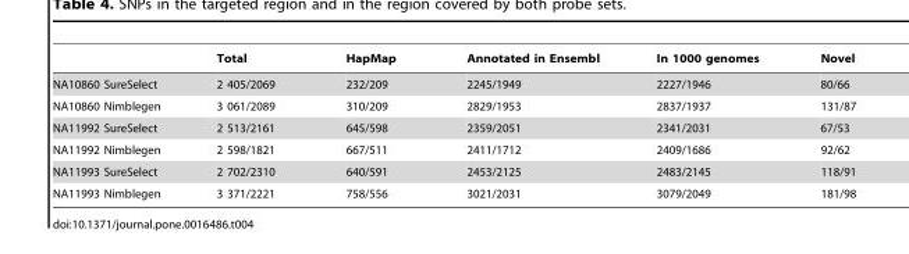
<table><thead><tr><td></td><td>Total</td><td>HapMap</td><td>Annotated in Ensembl</td><td>In 1000 genomes</td><td>Novel</td></tr></thead><tbody><tr><td>NA10860 SureSelect</td><td>2 405/2069</td><td>232/209</td><td>2245/1949</td><td>2227/1946</td><td>80/66</td></tr><tr><td>NA10860 Nimblegen</td><td>3 061/2089</td><td>310/209</td><td>2829/1953</td><td>2837/1937</td><td>131/87</td></tr><tr><td>NA11992 SureSelect</td><td>2 513/2161</td><td>645/598</td><td>2359/2051</td><td>2341/2031</td><td>67/53</td></tr><tr><td>NA11992 Nimblegen</td><td>2 598/1821</td><td>667/511</td><td>2411/1712</td><td>2409/1686</td><td>92/62</td></tr><tr><td>NA11993 SureSelect</td><td>2 702/2310</td><td>640/591</td><td>2453/2125</td><td>2483/2145</td><td>118/91</td></tr><tr><td>NA11993 Nimblegen</td><td>3 371/2221</td><td>758/556</td><td>3021/2031</td><td>3079/2049</td><td>181/98</td></tr></tbody></table>